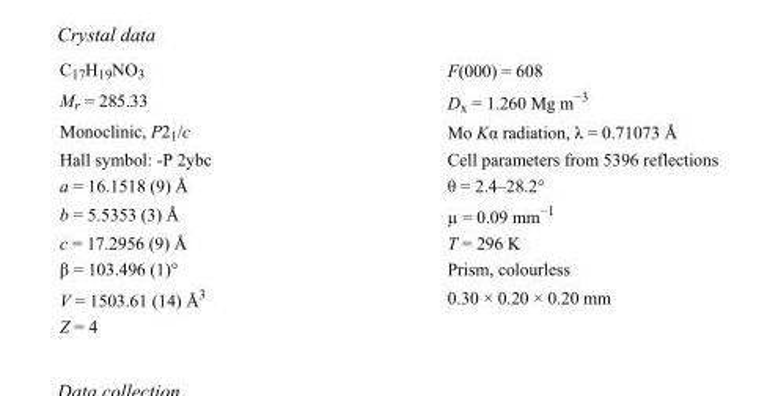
<table><tbody><tr><td>C<sub>17</sub>H<sub>19</sub>NO<sub>3</sub></td><td>F(000) = 608</td></tr><tr><td>M<sub>r</sub> = 285.33</td><td>D<sub>x</sub> = 1.260 Mg m<sup>−3</sup></td></tr><tr><td>Monoclinic, P2<sub>1</sub>/c</td><td>Mo Kα radiation, λ = 0.71073 Å</td></tr><tr><td>Hall symbol: -P 2ybc</td><td>Cell parameters from 5396 reflections</td></tr><tr><td>a = 16.1518 (9) Å</td><td>θ = 2.4–28.2°</td></tr><tr><td>b = 5.5353 (3) Å</td><td>µ = 0.09 mm<sup>−1</sup></td></tr><tr><td>c = 17.2956 (9) Å</td><td>T = 296 K</td></tr><tr><td>β = 103.496 (1)°</td><td>Prism, colourless</td></tr><tr><td>V = 1503.61 (14) Å<sup>3</sup></td><td>0.30 × 0.20 × 0.20 mm</td></tr><tr><td>Z = 4</td><td></td></tr></tbody></table>